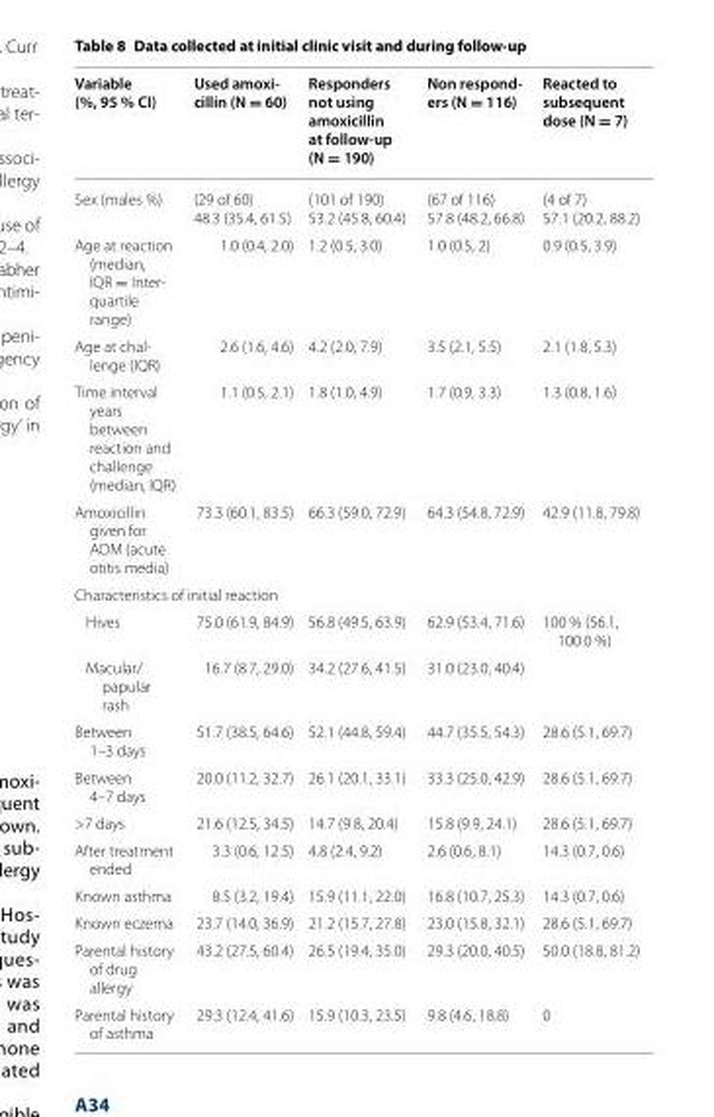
<table><thead><tr><td>Variable (%, 95 % CI)</td><td>Used amoxi‑ cillin (N = 60)</td><td>Responders not using amoxicillin at follow‑up (N = 190)</td><td>Non respond‑ ers (N = 116)</td><td>Reacted to subsequent dose (N = 7)</td></tr></thead><tbody><tr><td>Sex (males %)</td><td>(29 of 60) 48.3 (35.4, 61.5)</td><td>(101 of 190) 53.2 (45.8, 60.4)</td><td>(67 of 116) 57.8 (48.2, 66.8)</td><td>(4 of 7) 57.1 (20.2, 88.2)</td></tr><tr><td>Age at reaction (median, IQR = Inter‑ quartile range)</td><td>1.0 (0.4, 2.0)</td><td>1.2 (0.5, 3.0)</td><td>1.0 (0.5, 2)</td><td>0.9 (0.5, 3.9)</td></tr><tr><td>Age at chal‑ lenge (IQR)</td><td>2.6 (1.6, 4.6)</td><td>4.2 (2.0, 7.9)</td><td>3.5 (2.1, 5.5)</td><td>2.1 (1.8, 5.3)</td></tr><tr><td>Time interval years between reaction and challenge (median, IQR)</td><td>1.1 (0.5, 2.1)</td><td>1.8 (1.0, 4.9)</td><td>1.7 (0.9, 3.3)</td><td>1.3 (0.8, 1.6)</td></tr><tr><td>Amoxicillin given for AOM (acute otitis media)</td><td>73.3 (60.1, 83.5)</td><td>66.3 (59.0, 72.9)</td><td>64.3 (54.8, 72.9)</td><td>42.9 (11.8, 79.8)</td></tr><tr><td colspan="5">Characteristics of initial reaction</td></tr><tr><td>Hives</td><td>75.0 (61.9, 84.9)</td><td>56.8 (49.5, 63.9)</td><td>62.9 (53.4, 71.6)</td><td>100 % (56.1, 100.0 %)</td></tr><tr><td>Macular/ papular rash</td><td>16.7 (8.7, 29.0)</td><td>34.2 (27.6, 41.5)</td><td>31.0 (23.0, 40.4)</td><td></td></tr><tr><td>Between 1–3 days</td><td>51.7 (38.5, 64.6)</td><td>52.1 (44.8, 59.4)</td><td>44.7 (35.5, 54.3)</td><td>28.6 (5.1, 69.7)</td></tr><tr><td>Between 4–7 days</td><td>20.0 (11.2, 32.7)</td><td>26.1 (20.1, 33.1)</td><td>33.3 (25.0, 42.9)</td><td>28.6 (5.1, 69.7)</td></tr><tr><td>&gt;7 days</td><td>21.6 (12.5, 34.5)</td><td>14.7 (9.8, 20.4)</td><td>15.8 (9.9, 24.1)</td><td>28.6 (5.1, 69.7)</td></tr><tr><td>After treatment ended</td><td>3.3 (0.6, 12.5)</td><td>4.8 (2.4, 9.2)</td><td>2.6 (0.6, 8.1)</td><td>14.3 (0.7, 0.6)</td></tr><tr><td>Known asthma</td><td>8.5 (3.2, 19.4)</td><td>15.9 (11.1, 22.0)</td><td>16.8 (10.7, 25.3)</td><td>14.3 (0.7, 0.6)</td></tr><tr><td>Known eczema</td><td>23.7 (14.0, 36.9)</td><td>21.2 (15.7, 27.8)</td><td>23.0 (15.8, 32.1)</td><td>28.6 (5.1, 69.7)</td></tr><tr><td>Parental history of drug allergy</td><td>43.2 (27.5, 60.4)</td><td>26.5 (19.4, 35.0)</td><td>29.3 (20.0, 40.5)</td><td>50.0 (18.8, 81.2)</td></tr><tr><td>Parental history of asthma</td><td>29.3 (12.4, 41.6)</td><td>15.9 (10.3, 23.5)</td><td>9.8 (4.6, 18.8)</td><td>0</td></tr></tbody></table>